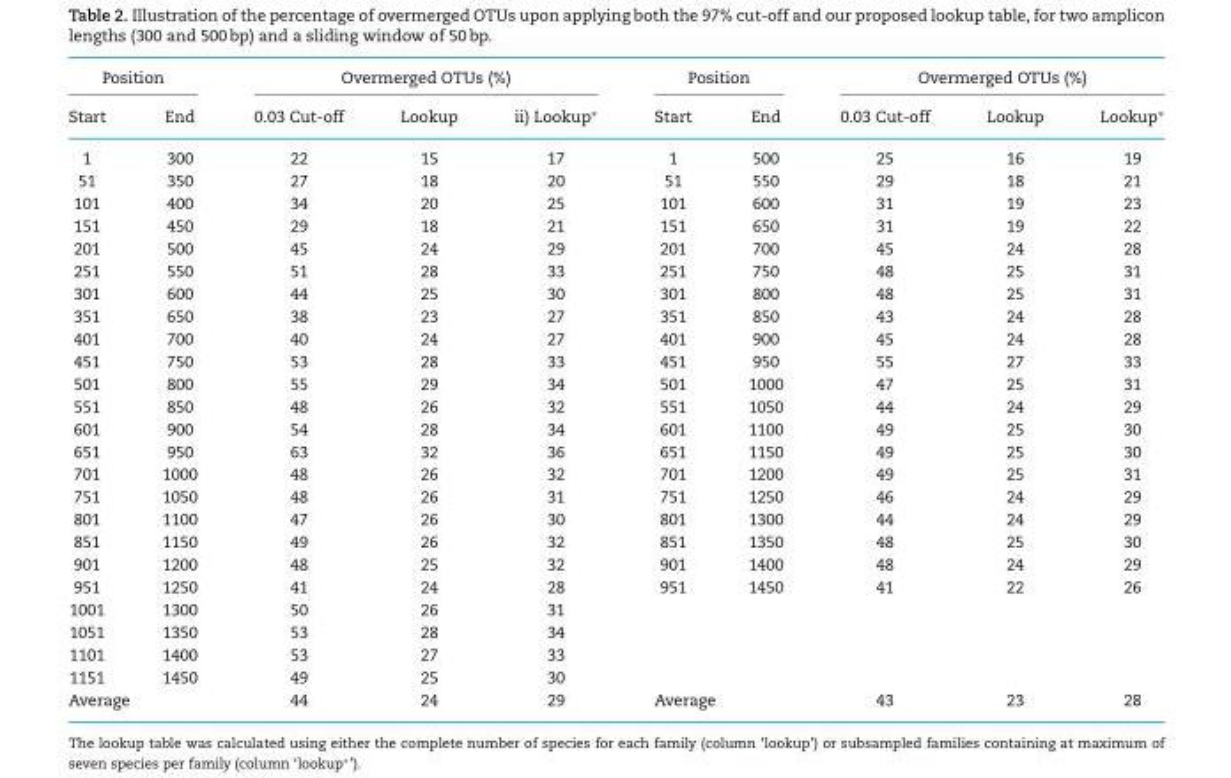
<table><thead><tr><td colspan="2">Position</td><td colspan="3">Overmerged OTUs (%)</td><td colspan="2">Position</td><td colspan="3">Overmerged OTUs (%)</td></tr><tr><td>Start</td><td>End</td><td>0.03 Cut-off</td><td>Lookup</td><td>ii) Lookup∗</td><td>Start</td><td>End</td><td>0.03 Cut-off</td><td>Lookup</td><td>Lookup∗</td></tr></thead><tbody><tr><td>1</td><td>300</td><td>22</td><td>15</td><td>17</td><td>1</td><td>500</td><td>25</td><td>16</td><td>19</td></tr><tr><td>51</td><td>350</td><td>27</td><td>18</td><td>20</td><td>51</td><td>550</td><td>29</td><td>18</td><td>21</td></tr><tr><td>101</td><td>400</td><td>34</td><td>20</td><td>25</td><td>101</td><td>600</td><td>31</td><td>19</td><td>23</td></tr><tr><td>151</td><td>450</td><td>29</td><td>18</td><td>21</td><td>151</td><td>650</td><td>31</td><td>19</td><td>22</td></tr><tr><td>201</td><td>500</td><td>45</td><td>24</td><td>29</td><td>201</td><td>700</td><td>45</td><td>24</td><td>28</td></tr><tr><td>251</td><td>550</td><td>51</td><td>28</td><td>33</td><td>251</td><td>750</td><td>48</td><td>25</td><td>31</td></tr><tr><td>301</td><td>600</td><td>44</td><td>25</td><td>30</td><td>301</td><td>800</td><td>48</td><td>25</td><td>31</td></tr><tr><td>351</td><td>650</td><td>38</td><td>23</td><td>27</td><td>351</td><td>850</td><td>43</td><td>24</td><td>28</td></tr><tr><td>401</td><td>700</td><td>40</td><td>24</td><td>27</td><td>401</td><td>900</td><td>45</td><td>24</td><td>28</td></tr><tr><td>451</td><td>750</td><td>53</td><td>28</td><td>33</td><td>451</td><td>950</td><td>55</td><td>27</td><td>33</td></tr><tr><td>501</td><td>800</td><td>55</td><td>29</td><td>34</td><td>501</td><td>1000</td><td>47</td><td>25</td><td>31</td></tr><tr><td>551</td><td>850</td><td>48</td><td>26</td><td>32</td><td>551</td><td>1050</td><td>44</td><td>24</td><td>29</td></tr><tr><td>601</td><td>900</td><td>54</td><td>28</td><td>34</td><td>601</td><td>1100</td><td>49</td><td>25</td><td>30</td></tr><tr><td>651</td><td>950</td><td>63</td><td>32</td><td>36</td><td>651</td><td>1150</td><td>49</td><td>25</td><td>30</td></tr><tr><td>701</td><td>1000</td><td>48</td><td>26</td><td>32</td><td>701</td><td>1200</td><td>49</td><td>25</td><td>31</td></tr><tr><td>751</td><td>1050</td><td>48</td><td>26</td><td>31</td><td>751</td><td>1250</td><td>46</td><td>24</td><td>29</td></tr><tr><td>801</td><td>1100</td><td>47</td><td>26</td><td>30</td><td>801</td><td>1300</td><td>44</td><td>24</td><td>29</td></tr><tr><td>851</td><td>1150</td><td>49</td><td>26</td><td>32</td><td>851</td><td>1350</td><td>48</td><td>25</td><td>30</td></tr><tr><td>901</td><td>1200</td><td>48</td><td>25</td><td>32</td><td>901</td><td>1400</td><td>48</td><td>24</td><td>29</td></tr><tr><td>951</td><td>1250</td><td>41</td><td>24</td><td>28</td><td>951</td><td>1450</td><td>41</td><td>22</td><td>26</td></tr><tr><td>1001</td><td>1300</td><td>50</td><td>26</td><td>31</td><td></td><td></td><td></td><td></td><td></td></tr><tr><td>1051</td><td>1350</td><td>53</td><td>28</td><td>34</td><td></td><td></td><td></td><td></td><td></td></tr><tr><td>1101</td><td>1400</td><td>53</td><td>27</td><td>33</td><td></td><td></td><td></td><td></td><td></td></tr><tr><td>1151</td><td>1450</td><td>49</td><td>25</td><td>30</td><td></td><td></td><td></td><td></td><td></td></tr><tr><td colspan="2">Average</td><td>44</td><td>24</td><td>29</td><td colspan="2">Average</td><td>43</td><td>23</td><td>28</td></tr></tbody></table>